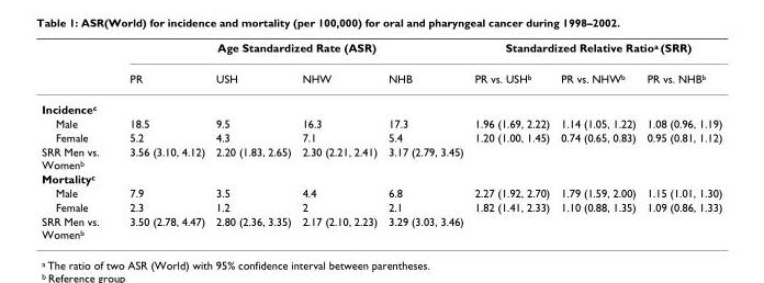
<table><thead><tr><td rowspan="2"></td><td colspan="4">Age Standardized Rate (ASR)</td><td colspan="3">Standardized Relative Ratio<sup>a</sup> (SRR)</td></tr><tr><td>PR</td><td>USH</td><td>NHW</td><td>NHB</td><td>PR vs. USH<sup>b</sup></td><td>PR vs. NHW<sup>b</sup></td><td>PR vs. NHB<sup>b</sup></td></tr></thead><tbody><tr><td colspan="8">Incidence<sup>c</sup></td></tr><tr><td>Male</td><td>18.5</td><td>9.5</td><td>16.3</td><td>17.3</td><td>1.96 (1.69, 2.22)</td><td>1.14 (1.05, 1.22)</td><td>1.08 (0.96, 1.19)</td></tr><tr><td>Female</td><td>5.2</td><td>4.3</td><td>7.1</td><td>5.4</td><td>1.20 (1.00, 1.45)</td><td>0.74 (0.65, 0.83)</td><td>0.95 (0.81, 1.12)</td></tr><tr><td>SRR Men vs. Women<sup>b</sup></td><td>3.56 (3.10, 4.12)</td><td>2.20 (1.83, 2.65)</td><td>2.30 (2.21, 2.41)</td><td>3.17 (2.79, 3.45)</td><td></td><td></td><td></td></tr><tr><td colspan="8">Mortality<sup>c</sup></td></tr><tr><td>Male</td><td>7.9</td><td>3.5</td><td>4.4</td><td>6.8</td><td>2.27 (1.92, 2.70)</td><td>1.79 (1.59, 2.00)</td><td>1.15 (1.01, 1.30)</td></tr><tr><td>Female</td><td>2.3</td><td>1.2</td><td>2</td><td>2.1</td><td>1.82 (1.41, 2.33)</td><td>1.10 (0.88, 1.35)</td><td>1.09 (0.86, 1.33)</td></tr><tr><td>SRR Men vs. Women<sup>b</sup></td><td>3.50 (2.78, 4.47)</td><td>2.80 (2.36, 3.35)</td><td>2.17 (2.10, 2.23)</td><td>3.29 (3.03, 3.46)</td><td></td><td></td><td></td></tr></tbody></table>